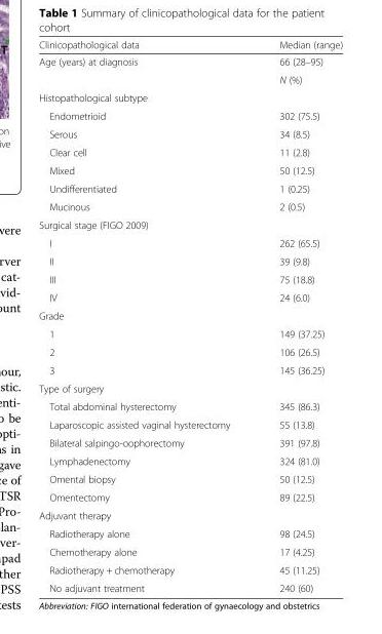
<table><thead><tr><td>Clinicopathological data</td><td>Median (range)</td></tr></thead><tbody><tr><td rowspan="2">Age (years) at diagnosis</td><td>66 (28–95)</td></tr><tr><td>N (%)</td></tr><tr><td colspan="2">Histopathological subtype</td></tr><tr><td>Endometrioid</td><td>302 (75.5)</td></tr><tr><td>Serous</td><td>34 (8.5)</td></tr><tr><td>Clear cell</td><td>11 (2.8)</td></tr><tr><td>Mixed</td><td>50 (12.5)</td></tr><tr><td>Undifferentiated</td><td>1 (0.25)</td></tr><tr><td>Mucinous</td><td>2 (0.5)</td></tr><tr><td colspan="2">Surgical stage (FIGO 2009)</td></tr><tr><td>I</td><td>262 (65.5)</td></tr><tr><td>II</td><td>39 (9.8)</td></tr><tr><td>III</td><td>75 (18.8)</td></tr><tr><td>IV</td><td>24 (6.0)</td></tr><tr><td colspan="2">Grade</td></tr><tr><td>1</td><td>149 (37.25)</td></tr><tr><td>2</td><td>106 (26.5)</td></tr><tr><td>3</td><td>145 (36.25)</td></tr><tr><td colspan="2">Type of surgery</td></tr><tr><td>Total abdominal hysterectomy</td><td>345 (86.3)</td></tr><tr><td>Laparoscopic assisted vaginal hysterectomy</td><td>55 (13.8)</td></tr><tr><td>Bilateral salpingo-oophorectomy</td><td>391 (97.8)</td></tr><tr><td>Lymphadenectomy</td><td>324 (81.0)</td></tr><tr><td>Omental biopsy</td><td>50 (12.5)</td></tr><tr><td>Omentectomy</td><td>89 (22.5)</td></tr><tr><td colspan="2">Adjuvant therapy</td></tr><tr><td>Radiotherapy alone</td><td>98 (24.5)</td></tr><tr><td>Chemotherapy alone</td><td>17 (4.25)</td></tr><tr><td>Radiotherapy + chemotherapy</td><td>45 (11.25)</td></tr><tr><td>No adjuvant treatment</td><td>240 (60)</td></tr></tbody></table>